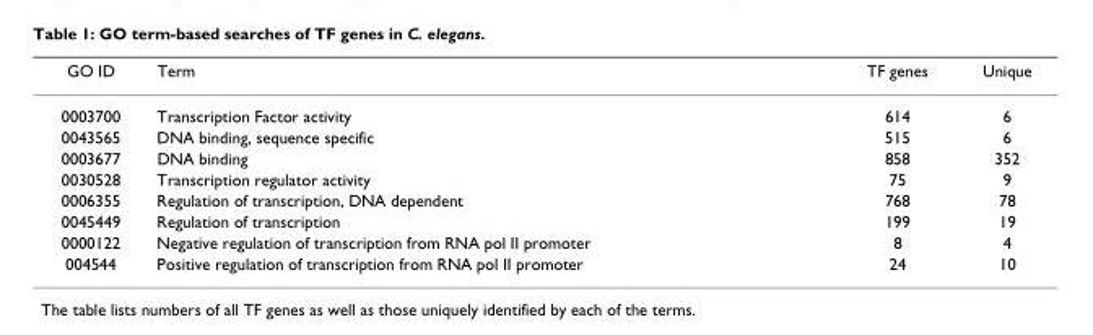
<table><thead><tr><td>GO ID</td><td>Term</td><td>TF genes</td><td>Unique</td></tr></thead><tbody><tr><td>0003700</td><td>Transcription Factor activity</td><td>614</td><td>6</td></tr><tr><td>0043565</td><td>DNA binding, sequence specific</td><td>515</td><td>6</td></tr><tr><td>0003677</td><td>DNA binding</td><td>858</td><td>352</td></tr><tr><td>0030528</td><td>Transcription regulator activity</td><td>75</td><td>9</td></tr><tr><td>0006355</td><td>Regulation of transcription, DNA dependent</td><td>768</td><td>78</td></tr><tr><td>0045449</td><td>Regulation of transcription</td><td>199</td><td>19</td></tr><tr><td>0000122</td><td>Negative regulation of transcription from RNA pol II promoter</td><td>8</td><td>4</td></tr><tr><td>004544</td><td>Positive regulation of transcription from RNA pol II promoter</td><td>24</td><td>10</td></tr></tbody></table>